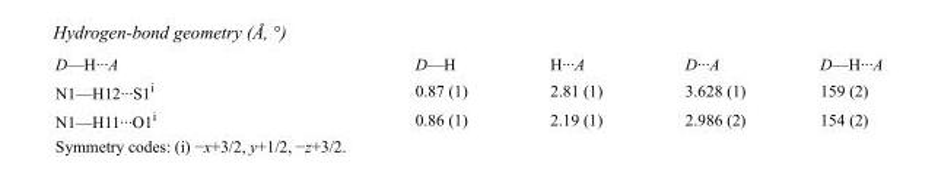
<table><tbody><tr><td>D—H···A</td><td>D—H</td><td>H···A</td><td>D···A</td><td>D—H···A</td></tr><tr><td>N1—H12···S1<sup>i</sup></td><td>0.87 (1)</td><td>2.81 (1)</td><td>3.628 (1)</td><td>159 (2)</td></tr><tr><td>N1—H11···O1<sup>i</sup></td><td>0.86 (1)</td><td>2.19 (1)</td><td>2.986 (2)</td><td>154 (2)</td></tr></tbody></table>